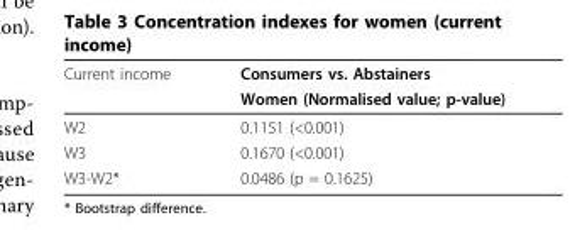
<table><thead><tr><td rowspan="2">Current income</td><td rowspan="2">Consumers vs. Abstainers Women (Normalised value; p-value)</td></tr><tr></tr></thead><tbody><tr><td>W2</td><td>0.1151 (&lt;0.001)</td></tr><tr><td>W3</td><td>0.1670 (&lt;0.001)</td></tr><tr><td>W3-W2*</td><td>0.0486 (p = 0.1625)</td></tr></tbody></table>